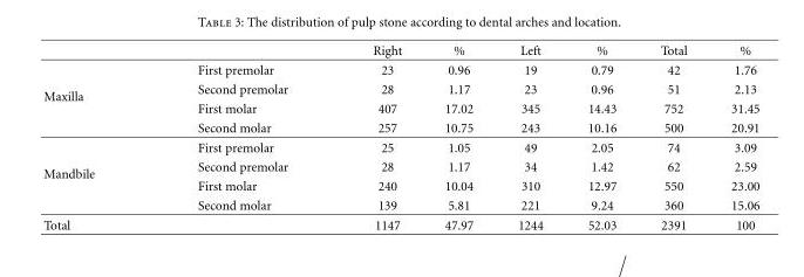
<table><thead><tr><td></td><td></td><td>Right</td><td>%</td><td>Left</td><td>%</td><td>Total</td><td>%</td></tr></thead><tbody><tr><td rowspan="4">Maxilla</td><td>First premolar</td><td>23</td><td>0.96</td><td>19</td><td>0.79</td><td>42</td><td>1.76</td></tr><tr><td>Second premolar</td><td>28</td><td>1.17</td><td>23</td><td>0.96</td><td>51</td><td>2.13</td></tr><tr><td>First molar</td><td>407</td><td>17.02</td><td>345</td><td>14.43</td><td>752</td><td>31.45</td></tr><tr><td>Second molar</td><td>257</td><td>10.75</td><td>243</td><td>10.16</td><td>500</td><td>20.91</td></tr><tr><td rowspan="4">Mandbile</td><td>First premolar</td><td>25</td><td>1.05</td><td>49</td><td>2.05</td><td>74</td><td>3.09</td></tr><tr><td>Second premolar</td><td>28</td><td>1.17</td><td>34</td><td>1.42</td><td>62</td><td>2.59</td></tr><tr><td>First molar</td><td>240</td><td>10.04</td><td>310</td><td>12.97</td><td>550</td><td>23.00</td></tr><tr><td>Second molar</td><td>139</td><td>5.81</td><td>221</td><td>9.24</td><td>360</td><td>15.06</td></tr><tr><td>Total</td><td></td><td>1147</td><td>47.97</td><td>1244</td><td>52.03</td><td>2391</td><td>100</td></tr></tbody></table>